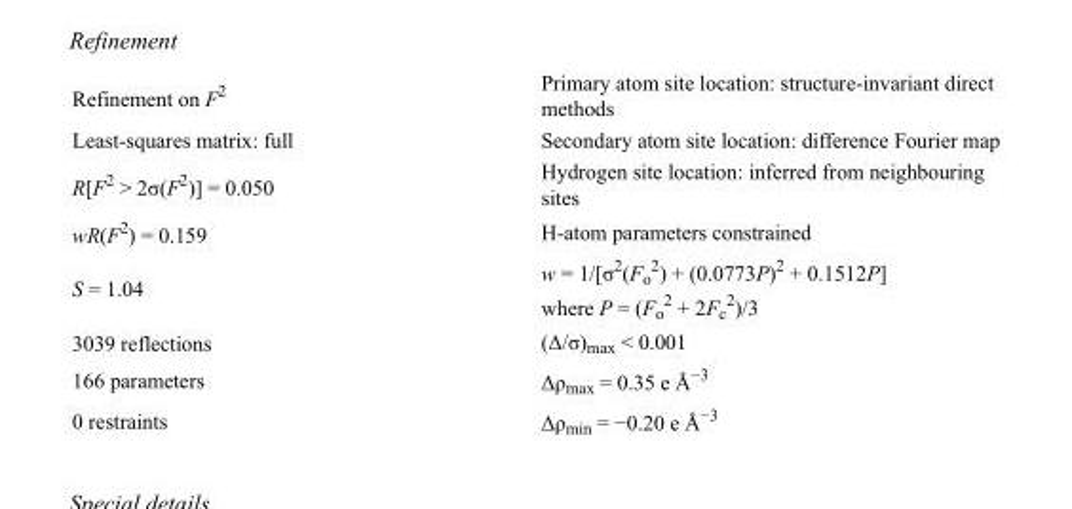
<table><tbody><tr><td>Refinement on F<sup>2</sup></td><td>Primary atom site location: structure-invariant direct methods</td></tr><tr><td>Least-squares matrix: full</td><td>Secondary atom site location: difference Fourier map</td></tr><tr><td>R[F<sup>2</sup> &gt; 2σ(F<sup>2</sup>)] = 0.050</td><td>Hydrogen site location: inferred from neighbouring sites</td></tr><tr><td>wR(F<sup>2</sup>) = 0.159</td><td>H-atom parameters constrained</td></tr><tr><td>S = 1.04</td><td>w = 1/[σ<sup>2</sup>(F<sub>o</sub> <sup>2</sup>) + (0.0773P)<sup>2</sup> + 0.1512P] where P = (F<sub>o</sub> <sup>2</sup> + 2F<sub>c</sub> <sup>2</sup>)/3</td></tr><tr><td>3039 reflections</td><td>(Δ/σ)<sub>max</sub> &lt; 0.001</td></tr><tr><td>166 parameters</td><td>Δρ<sub>max</sub> = 0.35 e Å<sup>−3</sup></td></tr><tr><td>0 restraints</td><td>Δρ<sub>min</sub> = −0.20 e Å<sup>−3</sup></td></tr></tbody></table>